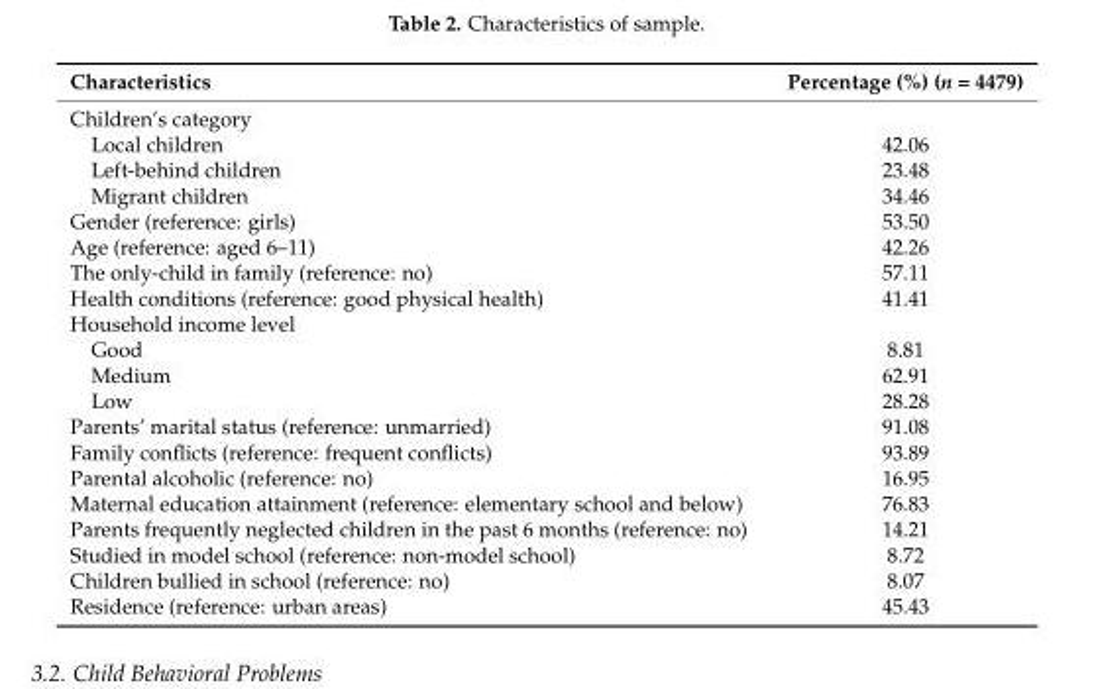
<table><thead><tr><td>Characteristics</td><td>Percentage (%) (n = 4479)</td></tr></thead><tbody><tr><td colspan="2">Children’s category</td></tr><tr><td>Local children</td><td>42.06</td></tr><tr><td>Left-behind children</td><td>23.48</td></tr><tr><td>Migrant children</td><td>34.46</td></tr><tr><td>Gender (reference: girls)</td><td>53.50</td></tr><tr><td>Age (reference: aged 6–11)</td><td>42.26</td></tr><tr><td>The only-child in family (reference: no)</td><td>57.11</td></tr><tr><td>Health conditions (reference: good physical health)</td><td>41.41</td></tr><tr><td colspan="2">Household income level</td></tr><tr><td>Good</td><td>8.81</td></tr><tr><td>Medium</td><td>62.91</td></tr><tr><td>Low</td><td>28.28</td></tr><tr><td>Parents’ marital status (reference: unmarried)</td><td>91.08</td></tr><tr><td>Family conflicts (reference: frequent conflicts)</td><td>93.89</td></tr><tr><td>Parental alcoholic (reference: no)</td><td>16.95</td></tr><tr><td>Maternal education attainment (reference: elementary school and below)</td><td>76.83</td></tr><tr><td>Parents frequently neglected children in the past 6 months (reference: no)</td><td>14.21</td></tr><tr><td>Studied in model school (reference: non-model school)</td><td>8.72</td></tr><tr><td>Children bullied in school (reference: no)</td><td>8.07</td></tr><tr><td>Residence (reference: urban areas)</td><td>45.43</td></tr></tbody></table>